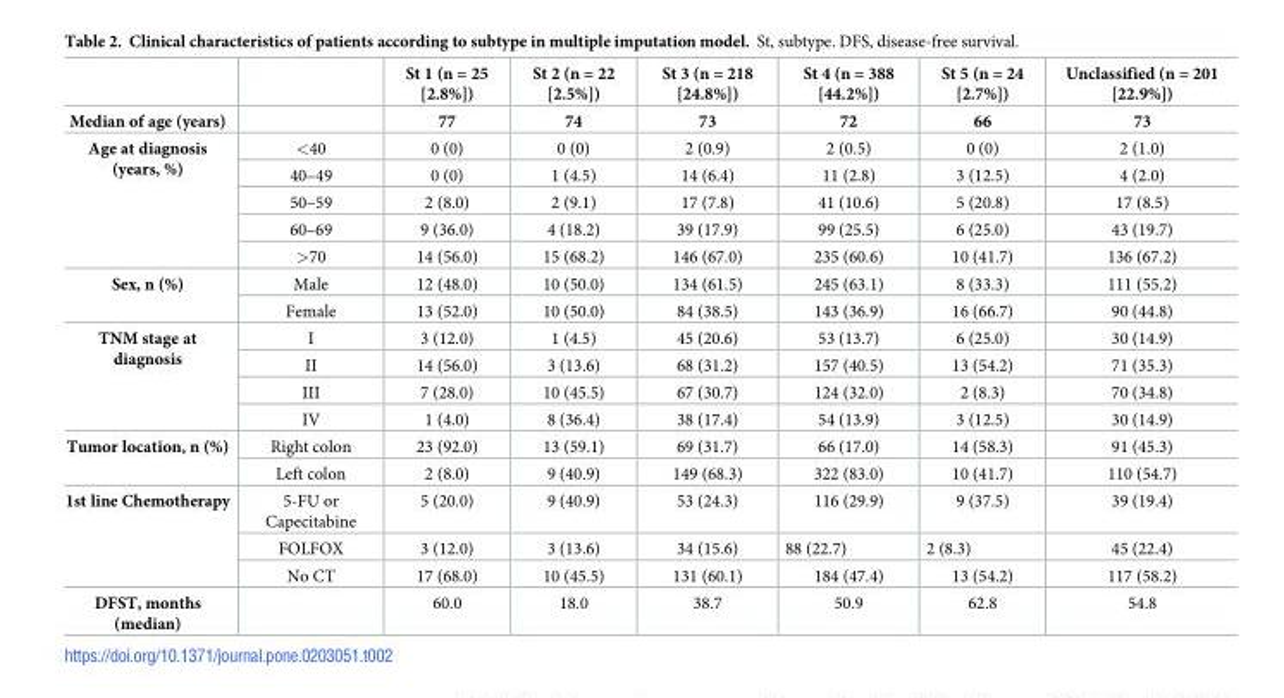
<table><thead><tr><td rowspan="2">Median of age (years)</td><td rowspan="2"></td><td rowspan="2">St 1 (n = 25 [2.8%]) 77</td><td rowspan="2">St 2 (n = 22 [2.5%]) 74</td><td rowspan="2">St 3 (n = 218 [24.8%]) 73</td><td rowspan="2">St 4 (n = 388 [44.2%]) 72</td><td rowspan="2">St 5 (n = 24 [2.7%]) 66</td><td rowspan="2">Unclassified (n = 201 [22.9%]) 73</td></tr><tr></tr></thead><tbody><tr><td rowspan="5">Age at diagnosis (years, %)</td><td>&lt;40</td><td>0 (0)</td><td>0 (0)</td><td>2 (0.9)</td><td>2 (0.5)</td><td>0 (0)</td><td>2 (1.0)</td></tr><tr><td>40–49</td><td>0 (0)</td><td>1 (4.5)</td><td>14 (6.4)</td><td>11 (2.8)</td><td>3 (12.5)</td><td>4 (2.0)</td></tr><tr><td>50–59</td><td>2 (8.0)</td><td>2 (9.1)</td><td>17 (7.8)</td><td>41 (10.6)</td><td>5 (20.8)</td><td>17 (8.5)</td></tr><tr><td>60–69</td><td>9 (36.0)</td><td>4 (18.2)</td><td>39 (17.9)</td><td>99 (25.5)</td><td>6 (25.0)</td><td>43 (19.7)</td></tr><tr><td>&gt;70</td><td>14 (56.0)</td><td>15 (68.2)</td><td>146 (67.0)</td><td>235 (60.6)</td><td>10 (41.7)</td><td>136 (67.2)</td></tr><tr><td rowspan="2">Sex, n (%)</td><td>Male</td><td>12 (48.0)</td><td>10 (50.0)</td><td>134 (61.5)</td><td>245 (63.1)</td><td>8 (33.3)</td><td>111 (55.2)</td></tr><tr><td>Female</td><td>13 (52.0)</td><td>10 (50.0)</td><td>84 (38.5)</td><td>143 (36.9)</td><td>16 (66.7)</td><td>90 (44.8)</td></tr><tr><td rowspan="4">TNM stage at diagnosis</td><td>I</td><td>3 (12.0)</td><td>1 (4.5)</td><td>45 (20.6)</td><td>53 (13.7)</td><td>6 (25.0)</td><td>30 (14.9)</td></tr><tr><td>II</td><td>14 (56.0)</td><td>3 (13.6)</td><td>68 (31.2)</td><td>157 (40.5)</td><td>13 (54.2)</td><td>71 (35.3)</td></tr><tr><td>III</td><td>7 (28.0)</td><td>10 (45.5)</td><td>67 (30.7)</td><td>124 (32.0)</td><td>2 (8.3)</td><td>70 (34.8)</td></tr><tr><td>IV</td><td>1 (4.0)</td><td>8 (36.4)</td><td>38 (17.4)</td><td>54 (13.9)</td><td>3 (12.5)</td><td>30 (14.9)</td></tr><tr><td rowspan="2">Tumor location, n (%)</td><td>Right colon</td><td>23 (92.0)</td><td>13 (59.1)</td><td>69 (31.7)</td><td>66 (17.0)</td><td>14 (58.3)</td><td>91 (45.3)</td></tr><tr><td>Left colon</td><td>2 (8.0)</td><td>9 (40.9)</td><td>149 (68.3)</td><td>322 (83.0)</td><td>10 (41.7)</td><td>110 (54.7)</td></tr><tr><td rowspan="3">1st line Chemotherapy</td><td>5-FU or Capecitabine</td><td>5 (20.0)</td><td>9 (40.9)</td><td>53 (24.3)</td><td>116 (29.9)</td><td>9 (37.5)</td><td>39 (19.4)</td></tr><tr><td>FOLFOX</td><td>3 (12.0)</td><td>3 (13.6)</td><td>34 (15.6)</td><td>88 (22.7)</td><td>2 (8.3)</td><td>45 (22.4)</td></tr><tr><td>No CT</td><td>17 (68.0)</td><td>10 (45.5)</td><td>131 (60.1)</td><td>184 (47.4)</td><td>13 (54.2)</td><td>117 (58.2)</td></tr><tr><td>DFST, months (median)</td><td></td><td>60.0</td><td>18.0</td><td>38.7</td><td>50.9</td><td>62.8</td><td>54.8</td></tr></tbody></table>